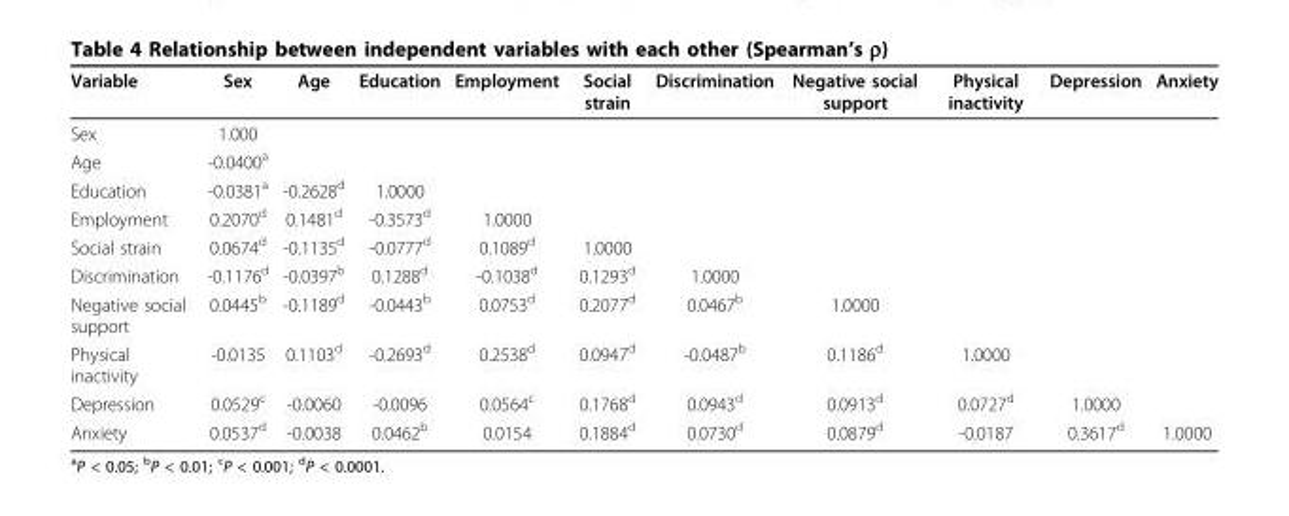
<table><thead><tr><td>Variable</td><td>Sex</td><td>Age</td><td>Education</td><td>Employment</td><td>Social strain</td><td>Discrimination</td><td>Negative social support</td><td>Physical inactivity</td><td>Depression</td><td>Anxiety</td></tr></thead><tbody><tr><td>Sex</td><td>1.000</td><td></td><td></td><td></td><td></td><td></td><td></td><td></td><td></td><td></td></tr><tr><td>Age</td><td>-0.0400<sup>a</sup></td><td></td><td></td><td></td><td></td><td></td><td></td><td></td><td></td><td></td></tr><tr><td>Education</td><td>-0.0381<sup>a</sup></td><td>-0.2628<sup>d</sup></td><td>1.0000</td><td></td><td></td><td></td><td></td><td></td><td></td><td></td></tr><tr><td>Employment</td><td>0.2070<sup>d</sup></td><td>0.1481<sup>d</sup></td><td>-0.3573<sup>d</sup></td><td>1.0000</td><td></td><td></td><td></td><td></td><td></td><td></td></tr><tr><td>Social strain</td><td>0.0674<sup>d</sup></td><td>-0.1135<sup>d</sup></td><td>-0.0777<sup>d</sup></td><td>0.1089<sup>d</sup></td><td>1.0000</td><td></td><td></td><td></td><td></td><td></td></tr><tr><td>Discrimination</td><td>-0.1176<sup>d</sup></td><td>-0.0397<sup>b</sup></td><td>0.1288<sup>d</sup></td><td>-0.1038<sup>d</sup></td><td>0.1293<sup>d</sup></td><td>1.0000</td><td></td><td></td><td></td><td></td></tr><tr><td>Negative social support</td><td>0.0445<sup>b</sup></td><td>-0.1189<sup>d</sup></td><td>-0.0443<sup>b</sup></td><td>0.0753<sup>d</sup></td><td>0.2077<sup>d</sup></td><td>0.0467<sup>b</sup></td><td>1.0000</td><td></td><td></td><td></td></tr><tr><td>Physical inactivity</td><td>-0.0135</td><td>0.1103<sup>d</sup></td><td>-0.2693<sup>d</sup></td><td>0.2538<sup>d</sup></td><td>0.0947<sup>d</sup></td><td>-0.0487<sup>b</sup></td><td>0.1186<sup>d</sup></td><td>1.0000</td><td></td><td></td></tr><tr><td>Depression</td><td>0.0529<sup>c</sup></td><td>-0.0060</td><td>-0.0096</td><td>0.0564<sup>c</sup></td><td>0.1768<sup>d</sup></td><td>0.0943<sup>d</sup></td><td>0.0913<sup>d</sup></td><td>0.0727<sup>d</sup></td><td>1.0000</td><td></td></tr><tr><td>Anxiety</td><td>0.0537<sup>d</sup></td><td>-0.0038</td><td>0.0462<sup>b</sup></td><td>0.0154</td><td>0.1884<sup>d</sup></td><td>0.0730<sup>d</sup></td><td>0.0879<sup>d</sup></td><td>-0.0187</td><td>0.3617<sup>d</sup></td><td>1.0000</td></tr></tbody></table>